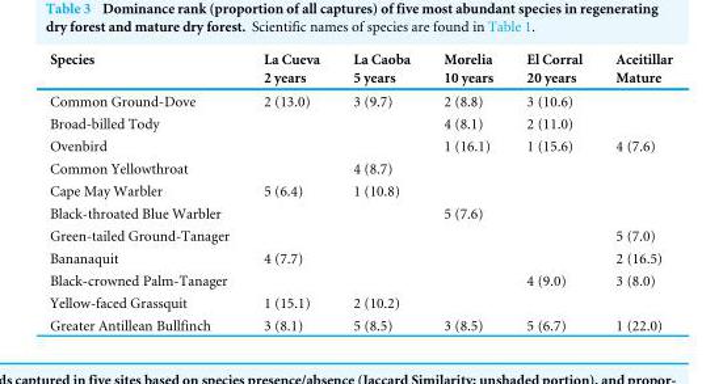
<table><thead><tr><td rowspan="2">Species</td><td rowspan="2">La Cueva 2 years</td><td rowspan="2">La Caoba 5 years</td><td rowspan="2">Morelia 10 years</td><td rowspan="2">El Corral 20 years</td><td rowspan="2">Aceitillar Mature</td></tr><tr></tr></thead><tbody><tr><td>Common Ground-Dove</td><td>2 (13.0)</td><td>3 (9.7)</td><td>2 (8.8)</td><td>3 (10.6)</td><td></td></tr><tr><td>Broad-billed Tody</td><td></td><td></td><td>4 (8.1)</td><td>2 (11.0)</td><td></td></tr><tr><td>Ovenbird</td><td></td><td></td><td>1 (16.1)</td><td>1 (15.6)</td><td>4 (7.6)</td></tr><tr><td>Common Yellowthroat</td><td></td><td>4 (8.7)</td><td></td><td></td><td></td></tr><tr><td>Cape May Warbler</td><td>5 (6.4)</td><td>1 (10.8)</td><td></td><td></td><td></td></tr><tr><td>Black-throated Blue Warbler</td><td></td><td></td><td>5 (7.6)</td><td></td><td></td></tr><tr><td>Green-tailed Ground-Tanager</td><td></td><td></td><td></td><td></td><td>5 (7.0)</td></tr><tr><td>Bananaquit</td><td>4 (7.7)</td><td></td><td></td><td></td><td>2 (16.5)</td></tr><tr><td>Black-crowned Palm-Tanager</td><td></td><td></td><td></td><td>4 (9.0)</td><td>3 (8.0)</td></tr><tr><td>Yellow-faced Grassquit</td><td>1 (15.1)</td><td>2 (10.2)</td><td></td><td></td><td></td></tr><tr><td>Greater Antillean Bullfinch</td><td>3 (8.1)</td><td>5 (8.5)</td><td>3 (8.5)</td><td>5 (6.7)</td><td>1 (22.0)</td></tr></tbody></table>